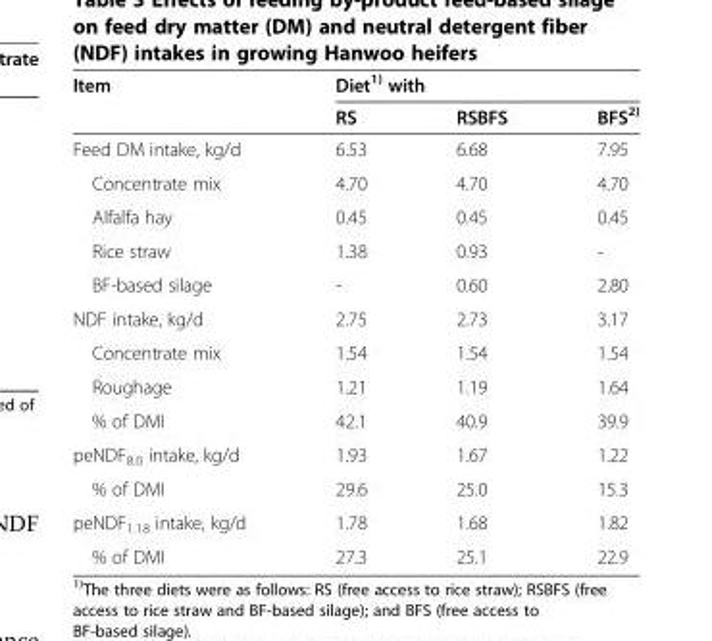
<table><thead><tr><td rowspan="2">Item</td><td colspan="3">Diet<sup>1)</sup> with</td></tr><tr><td>RS</td><td>RSBFS</td><td>BFS<sup>2)</sup></td></tr></thead><tbody><tr><td>Feed DM intake, kg/d</td><td>6.53</td><td>6.68</td><td>7.95</td></tr><tr><td>Concentrate mix</td><td>4.70</td><td>4.70</td><td>4.70</td></tr><tr><td>Alfalfa hay</td><td>0.45</td><td>0.45</td><td>0.45</td></tr><tr><td>Rice straw</td><td>1.38</td><td>0.93</td><td>-</td></tr><tr><td>BF-based silage</td><td>-</td><td>0.60</td><td>2.80</td></tr><tr><td>NDF intake, kg/d</td><td>2.75</td><td>2.73</td><td>3.17</td></tr><tr><td>Concentrate mix</td><td>1.54</td><td>1.54</td><td>1.54</td></tr><tr><td>Roughage</td><td>1.21</td><td>1.19</td><td>1.64</td></tr><tr><td>% of DMI</td><td>42.1</td><td>40.9</td><td>39.9</td></tr><tr><td>peNDF<sub>8.0</sub> intake, kg/d</td><td>1.93</td><td>1.67</td><td>1.22</td></tr><tr><td>% of DMI</td><td>29.6</td><td>25.0</td><td>15.3</td></tr><tr><td>peNDF<sub>1.18</sub> intake, kg/d</td><td>1.78</td><td>1.68</td><td>1.82</td></tr><tr><td>% of DMI</td><td>27.3</td><td>25.1</td><td>22.9</td></tr></tbody></table>